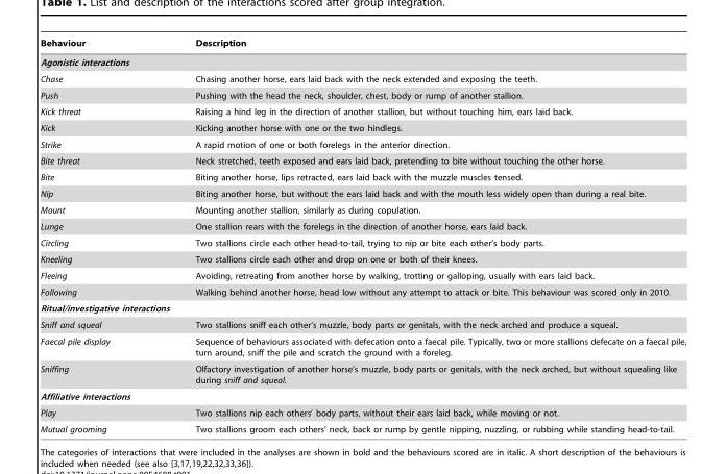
<table><thead><tr><td>Behaviour</td><td>Description</td></tr></thead><tbody><tr><td colspan="2">Agonistic interactions</td></tr><tr><td>Chase</td><td>Chasing another horse, ears laid back with the neck extended and exposing the teeth.</td></tr><tr><td>Push</td><td>Pushing with the head the neck, shoulder, chest, body or rump of another stallion.</td></tr><tr><td>Kick threat</td><td>Raising a hind leg in the direction of another stallion, but without touching him, ears laid back.</td></tr><tr><td>Kick</td><td>Kicking another horse with one or the two hindlegs.</td></tr><tr><td>Strike</td><td>A rapid motion of one or both forelegs in the anterior direction.</td></tr><tr><td>Bite threat</td><td>Neck stretched, teeth exposed and ears laid back, pretending to bite without touching the other horse.</td></tr><tr><td>Bite</td><td>Biting another horse, lips retracted, ears laid back with the muzzle muscles tensed.</td></tr><tr><td>Nip</td><td>Biting another horse, but without the ears laid back and with the mouth less widely open than during a real bite.</td></tr><tr><td>Mount</td><td>Mounting another stallion, similarly as during copulation.</td></tr><tr><td>Lunge</td><td>One stallion rears with the forelegs in the direction of another horse, ears laid back.</td></tr><tr><td>Circling</td><td>Two stallions circle each other head-to-tail, trying to nip or bite each other’s body parts.</td></tr><tr><td>Kneeling</td><td>Two stallions circle each other and drop on one or both of their knees.</td></tr><tr><td>Fleeing</td><td>Avoiding, retreating from another horse by walking, trotting or galloping, usually with ears laid back.</td></tr><tr><td>Following</td><td>Walking behind another horse, head low without any attempt to attack or bite. This behaviour was scored only in 2010.</td></tr><tr><td colspan="2">Ritual/investigative interactions</td></tr><tr><td>Sniff and squeal</td><td>Two stallions sniff each other’s muzzle, body parts or genitals, with the neck arched and produce a squeal.</td></tr><tr><td>Faecal pile display</td><td>Sequence of behaviours associated with defecation onto a faecal pile. Typically, two or more stallions defecate on a faecal pile, turn around, sniff the pile and scratch the ground with a foreleg.</td></tr><tr><td>Sniffing</td><td>Olfactory investigation of another horse’s muzzle, body parts or genitals, with the neck arched, but without squealing like during sniff and squeal.</td></tr><tr><td colspan="2">Affiliative interactions</td></tr><tr><td>Play</td><td>Two stallions nip each others’ body parts, without their ears laid back, while moving or not.</td></tr><tr><td>Mutual grooming</td><td>Two stallions groom each others’ neck, back or rump by gentle nipping, nuzzling, or rubbing while standing head-to-tail.</td></tr></tbody></table>